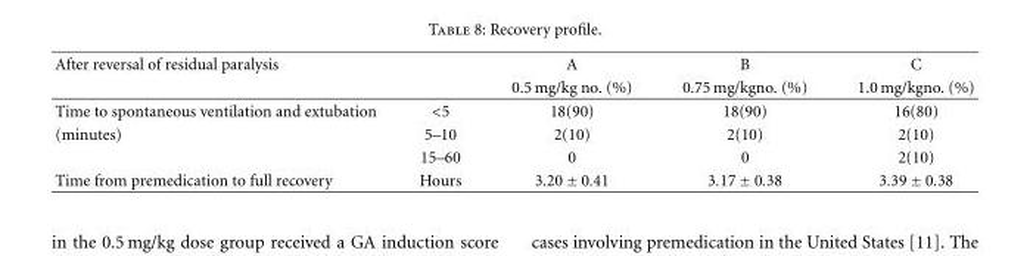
<table><thead><tr><td rowspan="2">After reversal of residual paralysis</td><td rowspan="2"></td><td rowspan="2">A 0.5 mg/kg no. (%)</td><td rowspan="2">B 0.75 mg/kgno. (%)</td><td rowspan="2">C 1.0 mg/kgno. (%)</td></tr><tr></tr></thead><tbody><tr><td>Time to spontaneous ventilation and extubation</td><td>&lt;5</td><td>18(90)</td><td>18(90)</td><td>16(80)</td></tr><tr><td rowspan="2">(minutes)</td><td>5–10</td><td>2(10)</td><td>2(10)</td><td>2(10)</td></tr><tr><td>15–60</td><td>0</td><td>0</td><td>2(10)</td></tr><tr><td>Time from premedication to full recovery</td><td>Hours</td><td>3.20 ± 0.41</td><td>3.17 ± 0.38</td><td>3.39 ± 0.38</td></tr></tbody></table>